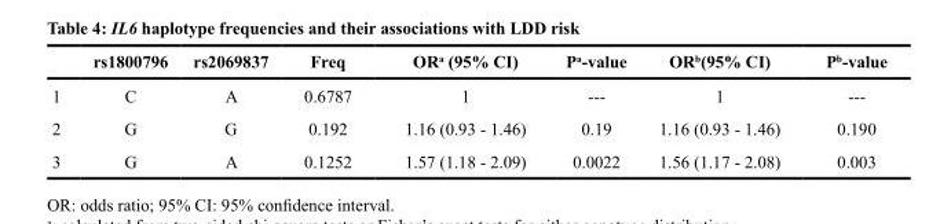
<table><thead><tr><td></td><td>rs1800796</td><td>rs2069837</td><td>Freq</td><td>OR<sup>a</sup> (95% CI)</td><td>P<sup>a</sup>-value</td><td>OR<sup>b</sup>(95% CI)</td><td>P<sup>b</sup>-value</td></tr></thead><tbody><tr><td>1</td><td>C</td><td>A</td><td>0.6787</td><td>1</td><td>---</td><td>1</td><td>---</td></tr><tr><td>2</td><td>G</td><td>G</td><td>0.192</td><td>1.16 (0.93 - 1.46)</td><td>0.19</td><td>1.16 (0.93 - 1.46)</td><td>0.190</td></tr><tr><td>3</td><td>G</td><td>A</td><td>0.1252</td><td>1.57 (1.18 - 2.09)</td><td>0.0022</td><td>1.56 (1.17 - 2.08)</td><td>0.003</td></tr></tbody></table>